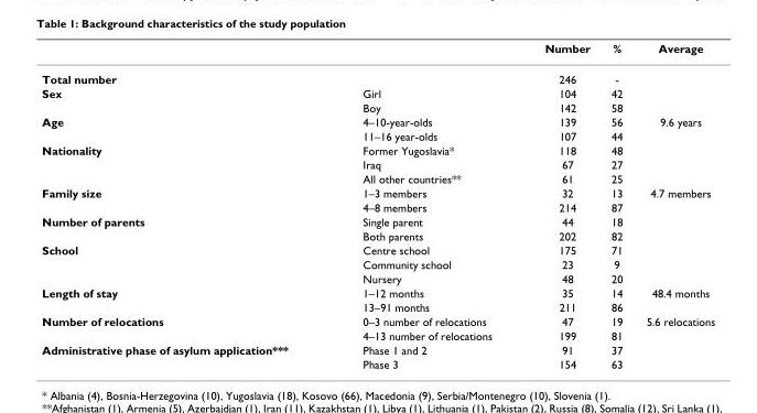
<table><thead><tr><td></td><td></td><td>Number</td><td>%</td><td>Average</td></tr></thead><tbody><tr><td>Total number</td><td></td><td>246</td><td>-</td><td></td></tr><tr><td rowspan="2">Sex</td><td>Girl</td><td>104</td><td>42</td><td></td></tr><tr><td>Boy</td><td>142</td><td>58</td><td></td></tr><tr><td rowspan="2">Age</td><td>4–10-year-olds</td><td>139</td><td>56</td><td>9.6 years</td></tr><tr><td>11–16 year-olds</td><td>107</td><td>44</td><td></td></tr><tr><td rowspan="3">Nationality</td><td>Former Yugoslavia*</td><td>118</td><td>48</td><td></td></tr><tr><td>Iraq</td><td>67</td><td>27</td><td></td></tr><tr><td>All other countries**</td><td>61</td><td>25</td><td></td></tr><tr><td rowspan="2">Family size</td><td>1–3 members</td><td>32</td><td>13</td><td>4.7 members</td></tr><tr><td>4–8 members</td><td>214</td><td>87</td><td></td></tr><tr><td rowspan="2">Number of parents</td><td>Single parent</td><td>44</td><td>18</td><td></td></tr><tr><td>Both parents</td><td>202</td><td>82</td><td></td></tr><tr><td rowspan="3">School</td><td>Centre school</td><td>175</td><td>71</td><td></td></tr><tr><td>Community school</td><td>23</td><td>9</td><td></td></tr><tr><td>Nursery</td><td>48</td><td>20</td><td></td></tr><tr><td rowspan="2">Length of stay</td><td>1–12 months</td><td>35</td><td>14</td><td>48.4 months</td></tr><tr><td>13–91 months</td><td>211</td><td>86</td><td></td></tr><tr><td rowspan="2">Number of relocations</td><td>0–3 number of relocations</td><td>47</td><td>19</td><td>5.6 relocations</td></tr><tr><td>4–13 number of relocations</td><td>199</td><td>81</td><td></td></tr><tr><td rowspan="2">Administrative phase of asylum application***</td><td>Phase 1 and 2</td><td>91</td><td>37</td><td></td></tr><tr><td>Phase 3</td><td>154</td><td>63</td><td></td></tr></tbody></table>